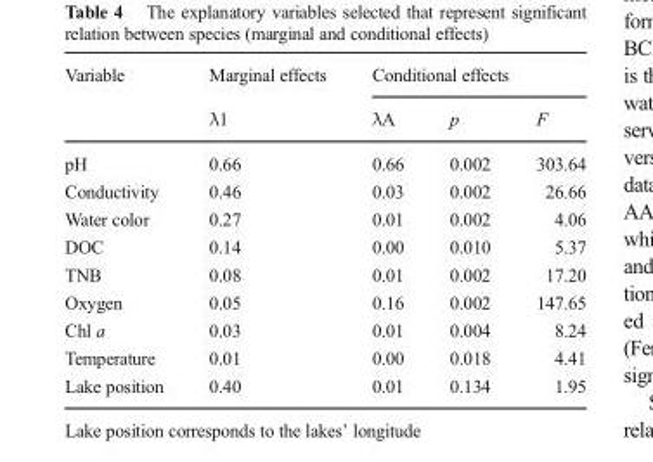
<table><thead><tr><td rowspan="2">Variable</td><td rowspan="2">Marginal effects λ1</td><td colspan="3">Conditional effects</td></tr><tr><td>λA</td><td>p</td><td>F</td></tr></thead><tbody><tr><td>pH</td><td>0.66</td><td>0.66</td><td>0.002</td><td>303.64</td></tr><tr><td>Conductivity</td><td>0.46</td><td>0.03</td><td>0.002</td><td>26.66</td></tr><tr><td>Water color</td><td>0.27</td><td>0.01</td><td>0.002</td><td>4.06</td></tr><tr><td>DOC</td><td>0.14</td><td>0.00</td><td>0.010</td><td>5.37</td></tr><tr><td>TNB</td><td>0.08</td><td>0.01</td><td>0.002</td><td>17.20</td></tr><tr><td>Oxygen</td><td>0.05</td><td>0.16</td><td>0.002</td><td>147.65</td></tr><tr><td>Chl a</td><td>0.03</td><td>0.01</td><td>0.004</td><td>8.24</td></tr><tr><td>Temperature</td><td>0.01</td><td>0.00</td><td>0.018</td><td>4.41</td></tr><tr><td>Lake position</td><td>0.40</td><td>0.01</td><td>0.134</td><td>1.95</td></tr></tbody></table>